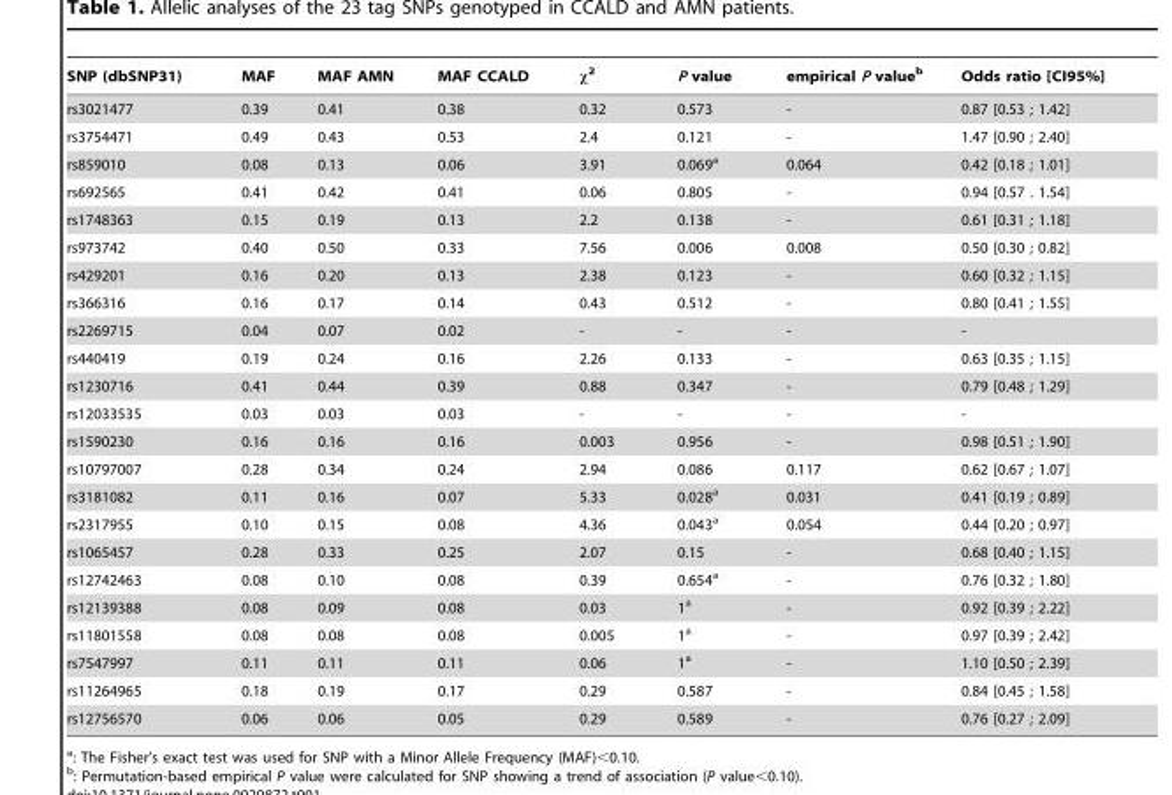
<table><thead><tr><td>SNP (dbSNP31)</td><td>MAF</td><td>MAF AMN</td><td>MAF CCALD</td><td>χ<sup>2</sup></td><td>P value</td><td>empirical P value<sup>b</sup></td><td>Odds ratio [CI95%]</td></tr></thead><tbody><tr><td>rs3021477</td><td>0.39</td><td>0.41</td><td>0.38</td><td>0.32</td><td>0.573</td><td>-</td><td>0.87 [0.53 ; 1.42]</td></tr><tr><td>rs3754471</td><td>0.49</td><td>0.43</td><td>0.53</td><td>2.4</td><td>0.121</td><td>-</td><td>1.47 [0.90 ; 2.40]</td></tr><tr><td>rs859010</td><td>0.08</td><td>0.13</td><td>0.06</td><td>3.91</td><td>0.069<sup>a</sup></td><td>0.064</td><td>0.42 [0.18 ; 1.01]</td></tr><tr><td>rs692565</td><td>0.41</td><td>0.42</td><td>0.41</td><td>0.06</td><td>0.805</td><td>-</td><td>0.94 [0.57 . 1.54]</td></tr><tr><td>rs1748363</td><td>0.15</td><td>0.19</td><td>0.13</td><td>2.2</td><td>0.138</td><td>-</td><td>0.61 [0.31 ; 1.18]</td></tr><tr><td>rs973742</td><td>0.40</td><td>0.50</td><td>0.33</td><td>7.56</td><td>0.006</td><td>0.008</td><td>0.50 [0.30 ; 0.82]</td></tr><tr><td>rs429201</td><td>0.16</td><td>0.20</td><td>0.13</td><td>2.38</td><td>0.123</td><td>-</td><td>0.60 [0.32 ; 1.15]</td></tr><tr><td>rs366316</td><td>0.16</td><td>0.17</td><td>0.14</td><td>0.43</td><td>0.512</td><td>-</td><td>0.80 [0.41 ; 1.55]</td></tr><tr><td>rs2269715</td><td>0.04</td><td>0.07</td><td>0.02</td><td>-</td><td>-</td><td>-</td><td>-</td></tr><tr><td>rs440419</td><td>0.19</td><td>0.24</td><td>0.16</td><td>2.26</td><td>0.133</td><td>-</td><td>0.63 [0.35 ; 1.15]</td></tr><tr><td>rs1230716</td><td>0.41</td><td>0.44</td><td>0.39</td><td>0.88</td><td>0.347</td><td>-</td><td>0.79 [0.48 ; 1.29]</td></tr><tr><td>rs12033535</td><td>0.03</td><td>0.03</td><td>0.03</td><td>-</td><td>-</td><td>-</td><td>-</td></tr><tr><td>rs1590230</td><td>0.16</td><td>0.16</td><td>0.16</td><td>0.003</td><td>0.956</td><td>-</td><td>0.98 [0.51 ; 1.90]</td></tr><tr><td>rs10797007</td><td>0.28</td><td>0.34</td><td>0.24</td><td>2.94</td><td>0.086</td><td>0.117</td><td>0.62 [0.67 ; 1.07]</td></tr><tr><td>rs3181082</td><td>0.11</td><td>0.16</td><td>0.07</td><td>5.33</td><td>0.028<sup>a</sup></td><td>0.031</td><td>0.41 [0.19 ; 0.89]</td></tr><tr><td>rs2317955</td><td>0.10</td><td>0.15</td><td>0.08</td><td>4.36</td><td>0.043<sup>a</sup></td><td>0.054</td><td>0.44 [0.20 ; 0.97]</td></tr><tr><td>rs1065457</td><td>0.28</td><td>0.33</td><td>0.25</td><td>2.07</td><td>0.15</td><td>-</td><td>0.68 [0.40 ; 1.15]</td></tr><tr><td>rs12742463</td><td>0.08</td><td>0.10</td><td>0.08</td><td>0.39</td><td>0.654<sup>a</sup></td><td>-</td><td>0.76 [0.32 ; 1.80]</td></tr><tr><td>rs12139388</td><td>0.08</td><td>0.09</td><td>0.08</td><td>0.03</td><td>1<sup>a</sup></td><td>-</td><td>0.92 [0.39 ; 2.22]</td></tr><tr><td>rs11801558</td><td>0.08</td><td>0.08</td><td>0.08</td><td>0.005</td><td>1<sup>a</sup></td><td>-</td><td>0.97 [0.39 ; 2.42]</td></tr><tr><td>rs7547997</td><td>0.11</td><td>0.11</td><td>0.11</td><td>0.06</td><td>1<sup>a</sup></td><td>-</td><td>1.10 [0.50 ; 2.39]</td></tr><tr><td>rs11264965</td><td>0.18</td><td>0.19</td><td>0.17</td><td>0.29</td><td>0.587</td><td>-</td><td>0.84 [0.45 ; 1.58]</td></tr><tr><td>rs12756570</td><td>0.06</td><td>0.06</td><td>0.05</td><td>0.29</td><td>0.589</td><td>-</td><td>0.76 [0.27 ; 2.09]</td></tr></tbody></table>